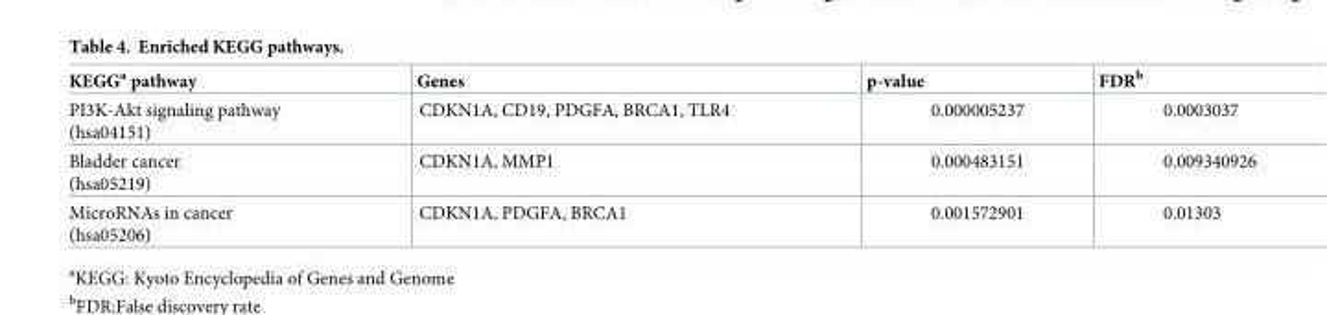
<table><thead><tr><td>KEGG<sup>a</sup> pathway</td><td>Genes</td><td>p-value</td><td>FDR<sup>b</sup></td></tr></thead><tbody><tr><td>PI3K-Akt signaling pathway (hsa04151)</td><td>CDKN1A, CD19, PDGFA, BRCA1, TLR4</td><td>0.000005237</td><td>0.0003037</td></tr><tr><td>Bladder cancer (hsa05219)</td><td>CDKN1A, MMP1</td><td>0.000483151</td><td>0.009340926</td></tr><tr><td>MicroRNAs in cancer (hsa05206)</td><td>CDKN1A, PDGFA, BRCA1</td><td>0.001572901</td><td>0.01303</td></tr></tbody></table>